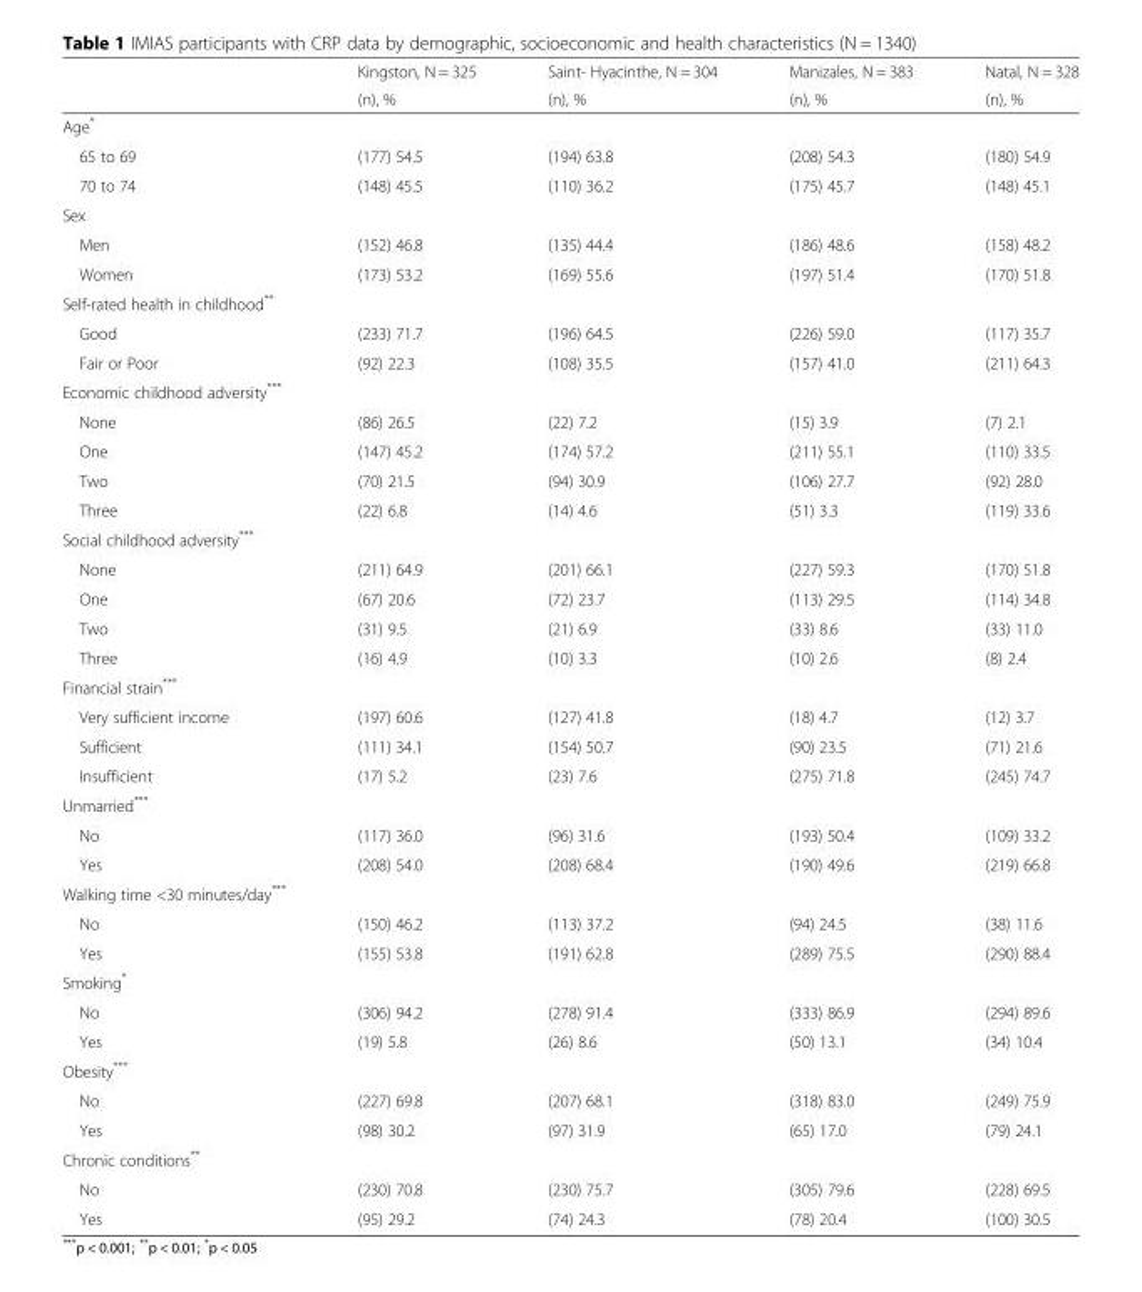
<table><thead><tr><td rowspan="2"></td><td rowspan="2">Kingston, N = 325 (n), %</td><td rowspan="2">Saint- Hyacinthe, N = 304 (n), %</td><td rowspan="2">Manizales, N = 383 (n), %</td><td rowspan="2">Natal, N = 328 (n), %</td></tr><tr></tr></thead><tbody><tr><td colspan="5">Age*</td></tr><tr><td>65 to 69</td><td>(177) 54.5</td><td>(194) 63.8</td><td>(208) 54.3</td><td>(180) 54.9</td></tr><tr><td>70 to 74</td><td>(148) 45.5</td><td>(110) 36.2</td><td>(175) 45.7</td><td>(148) 45.1</td></tr><tr><td colspan="5">Sex</td></tr><tr><td>Men</td><td>(152) 46.8</td><td>(135) 44.4</td><td>(186) 48.6</td><td>(158) 48.2</td></tr><tr><td>Women</td><td>(173) 53.2</td><td>(169) 55.6</td><td>(197) 51.4</td><td>(170) 51.8</td></tr><tr><td colspan="5">Self-rated health in childhood**</td></tr><tr><td>Good</td><td>(233) 71.7</td><td>(196) 64.5</td><td>(226) 59.0</td><td>(117) 35.7</td></tr><tr><td>Fair or Poor</td><td>(92) 22.3</td><td>(108) 35.5</td><td>(157) 41.0</td><td>(211) 64.3</td></tr><tr><td colspan="5">Economic childhood adversity***</td></tr><tr><td>None</td><td>(86) 26.5</td><td>(22) 7.2</td><td>(15) 3.9</td><td>(7) 2.1</td></tr><tr><td>One</td><td>(147) 45.2</td><td>(174) 57.2</td><td>(211) 55.1</td><td>(110) 33.5</td></tr><tr><td>Two</td><td>(70) 21.5</td><td>(94) 30.9</td><td>(106) 27.7</td><td>(92) 28.0</td></tr><tr><td>Three</td><td>(22) 6.8</td><td>(14) 4.6</td><td>(51) 3.3</td><td>(119) 33.6</td></tr><tr><td colspan="5">Social childhood adversity***</td></tr><tr><td>None</td><td>(211) 64.9</td><td>(201) 66.1</td><td>(227) 59.3</td><td>(170) 51.8</td></tr><tr><td>One</td><td>(67) 20.6</td><td>(72) 23.7</td><td>(113) 29.5</td><td>(114) 34.8</td></tr><tr><td>Two</td><td>(31) 9.5</td><td>(21) 6.9</td><td>(33) 8.6</td><td>(33) 11.0</td></tr><tr><td>Three</td><td>(16) 4.9</td><td>(10) 3.3</td><td>(10) 2.6</td><td>(8) 2.4</td></tr><tr><td colspan="5">Financial strain***</td></tr><tr><td>Very sufficient income</td><td>(197) 60.6</td><td>(127) 41.8</td><td>(18) 4.7</td><td>(12) 3.7</td></tr><tr><td>Sufficient</td><td>(111) 34.1</td><td>(154) 50.7</td><td>(90) 23.5</td><td>(71) 21.6</td></tr><tr><td>Insufficient</td><td>(17) 5.2</td><td>(23) 7.6</td><td>(275) 71.8</td><td>(245) 74.7</td></tr><tr><td colspan="5">Unmarried***</td></tr><tr><td>No</td><td>(117) 36.0</td><td>(96) 31.6</td><td>(193) 50.4</td><td>(109) 33.2</td></tr><tr><td>Yes</td><td>(208) 54.0</td><td>(208) 68.4</td><td>(190) 49.6</td><td>(219) 66.8</td></tr><tr><td colspan="5">Walking time &lt;30 minutes/day***</td></tr><tr><td>No</td><td>(150) 46.2</td><td>(113) 37.2</td><td>(94) 24.5</td><td>(38) 11.6</td></tr><tr><td>Yes</td><td>(155) 53.8</td><td>(191) 62.8</td><td>(289) 75.5</td><td>(290) 88.4</td></tr><tr><td colspan="5">Smoking*</td></tr><tr><td>No</td><td>(306) 94.2</td><td>(278) 91.4</td><td>(333) 86.9</td><td>(294) 89.6</td></tr><tr><td>Yes</td><td>(19) 5.8</td><td>(26) 8.6</td><td>(50) 13.1</td><td>(34) 10.4</td></tr><tr><td colspan="5">Obesity***</td></tr><tr><td>No</td><td>(227) 69.8</td><td>(207) 68.1</td><td>(318) 83.0</td><td>(249) 75.9</td></tr><tr><td>Yes</td><td>(98) 30.2</td><td>(97) 31.9</td><td>(65) 17.0</td><td>(79) 24.1</td></tr><tr><td colspan="5">Chronic conditions**</td></tr><tr><td>No</td><td>(230) 70.8</td><td>(230) 75.7</td><td>(305) 79.6</td><td>(228) 69.5</td></tr><tr><td>Yes</td><td>(95) 29.2</td><td>(74) 24.3</td><td>(78) 20.4</td><td>(100) 30.5</td></tr></tbody></table>